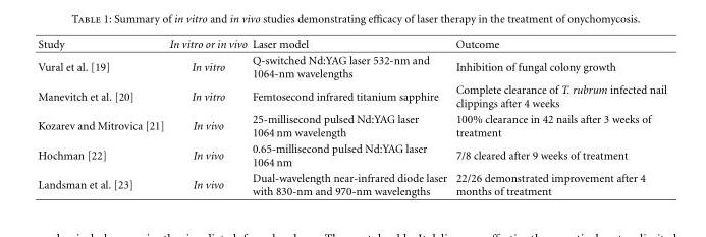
<table><thead><tr><td>Study</td><td>In vitro or in vivo</td><td>Laser model</td><td>Outcome</td></tr></thead><tbody><tr><td>Vural et al. [19]</td><td>In vitro</td><td>Q-switched Nd:YAG laser 532-nm and 1064-nm wavelengths</td><td>Inhibition of fungal colony growth</td></tr><tr><td>Manevitch et al. [20]</td><td>In vitro</td><td>Femtosecond infrared titanium sapphire</td><td>Complete clearance of T. rubrum infected nail clippings after 4 weeks</td></tr><tr><td>Kozarev and Mitrovica [21]</td><td>In vivo</td><td>25-millisecond pulsed Nd:YAG laser 1064 nm wavelength</td><td>100% clearance in 42 nails after 3 weeks of treatment</td></tr><tr><td>Hochman [22]</td><td>In vivo</td><td>0.65-millisecond pulsed Nd:YAG laser 1064 nm</td><td>7/8 cleared after 9 weeks of treatment</td></tr><tr><td>Landsman et al. [23]</td><td>In vivo</td><td>Dual-wavelength near-infrared diode laser with 830-nm and 970-nm wavelengths</td><td>22/26 demonstrated improvement after 4 months of treatment</td></tr></tbody></table>